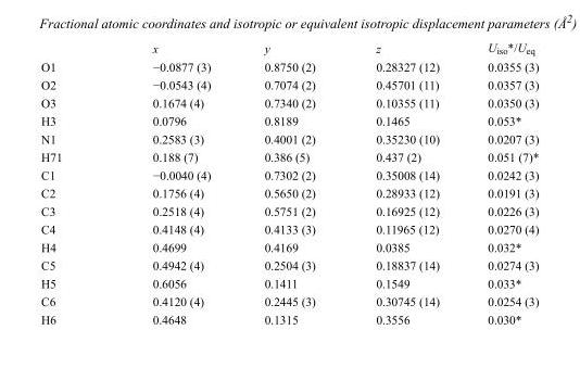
<table><thead><tr><td></td><td>x</td><td>y</td><td>z</td><td>U<sub>iso</sub>*/U<sub>eq</sub></td></tr></thead><tbody><tr><td>O1</td><td>−0.0877 (3)</td><td>0.8750 (2)</td><td>0.28327 (12)</td><td>0.0355 (3)</td></tr><tr><td>O2</td><td>−0.0543 (4)</td><td>0.7074 (2)</td><td>0.45701 (11)</td><td>0.0357 (3)</td></tr><tr><td>O3</td><td>0.1674 (4)</td><td>0.7340 (2)</td><td>0.10355 (11)</td><td>0.0350 (3)</td></tr><tr><td>H3</td><td>0.0796</td><td>0.8189</td><td>0.1465</td><td>0.053*</td></tr><tr><td>N1</td><td>0.2583 (3)</td><td>0.4001 (2)</td><td>0.35230 (10)</td><td>0.0207 (3)</td></tr><tr><td>H71</td><td>0.188 (7)</td><td>0.386 (5)</td><td>0.437 (2)</td><td>0.051 (7)*</td></tr><tr><td>C1</td><td>−0.0040 (4)</td><td>0.7302 (2)</td><td>0.35008 (14)</td><td>0.0242 (3)</td></tr><tr><td>C2</td><td>0.1756 (4)</td><td>0.5650 (2)</td><td>0.28933 (12)</td><td>0.0191 (3)</td></tr><tr><td>C3</td><td>0.2518 (4)</td><td>0.5751 (2)</td><td>0.16925 (12)</td><td>0.0226 (3)</td></tr><tr><td>C4</td><td>0.4148 (4)</td><td>0.4133 (3)</td><td>0.11965 (12)</td><td>0.0270 (4)</td></tr><tr><td>H4</td><td>0.4699</td><td>0.4169</td><td>0.0385</td><td>0.032*</td></tr><tr><td>C5</td><td>0.4942 (4)</td><td>0.2504 (3)</td><td>0.18837 (14)</td><td>0.0274 (3)</td></tr><tr><td>H5</td><td>0.6056</td><td>0.1411</td><td>0.1549</td><td>0.033*</td></tr><tr><td>C6</td><td>0.4120 (4)</td><td>0.2445 (3)</td><td>0.30745 (14)</td><td>0.0254 (3)</td></tr><tr><td>H6</td><td>0.4648</td><td>0.1315</td><td>0.3556</td><td>0.030*</td></tr></tbody></table>